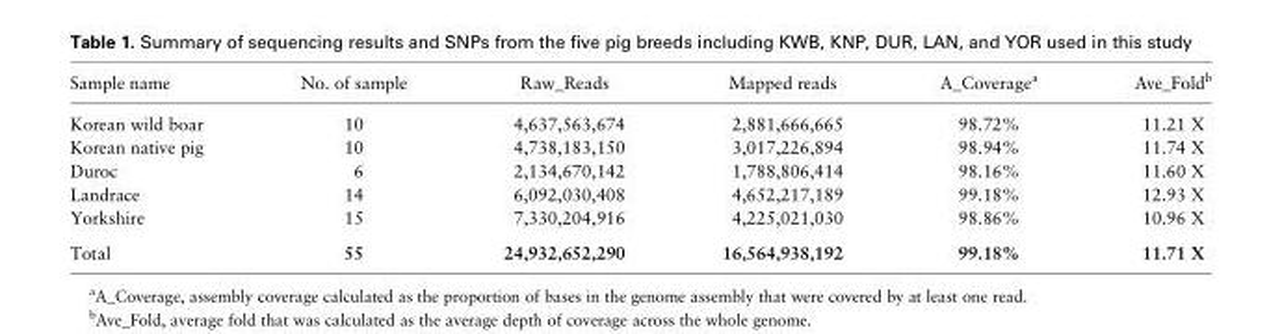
<table><thead><tr><td>Sample name</td><td>No. of sample</td><td>Raw_Reads</td><td>Mapped reads</td><td>A_Coverage<sup>a</sup></td><td>Ave_Fold<sup>b</sup></td></tr></thead><tbody><tr><td>Korean wild boar</td><td>10</td><td>4,637,563,674</td><td>2,881,666,665</td><td>98.72%</td><td>11.21 X</td></tr><tr><td>Korean native pig</td><td>10</td><td>4,738,183,150</td><td>3,017,226,894</td><td>98.94%</td><td>11.74 X</td></tr><tr><td>Duroc</td><td>6</td><td>2,134,670,142</td><td>1,788,806,414</td><td>98.16%</td><td>11.60 X</td></tr><tr><td>Landrace</td><td>14</td><td>6,092,030,408</td><td>4,652,217,189</td><td>99.18%</td><td>12.93 X</td></tr><tr><td>Yorkshire</td><td>15</td><td>7,330,204,916</td><td>4,225,021,030</td><td>98.86%</td><td>10.96 X</td></tr><tr><td>Total</td><td>55</td><td>24,932,652,290</td><td>16,564,938,192</td><td>99.18%</td><td>11.71 X</td></tr></tbody></table>